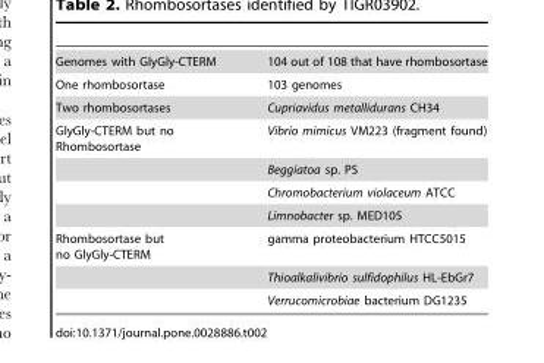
<table><tbody><tr><td>Genomes with GlyGly-CTERM</td><td>104 out of 108 that have rhombosortase</td></tr><tr><td>One rhombosortase</td><td>103 genomes</td></tr><tr><td>Two rhombosortases</td><td>Cupriavidus metallidurans CH34</td></tr><tr><td rowspan="4">GlyGly-CTERM but no Rhombosortase</td><td>Vibrio mimicus VM223 (fragment found)</td></tr><tr><td>Beggiatoa sp. PS</td></tr><tr><td>Chromobacterium violaceum ATCC</td></tr><tr><td>Limnobacter sp. MED105</td></tr><tr><td rowspan="3">Rhombosortase but no GlyGly-CTERM</td><td>gamma proteobacterium HTCC5015</td></tr><tr><td>Thioalkalivibrio sulfidophilus HL-EbGr7</td></tr><tr><td>Verrucomicrobiae bacterium DG1235</td></tr></tbody></table>